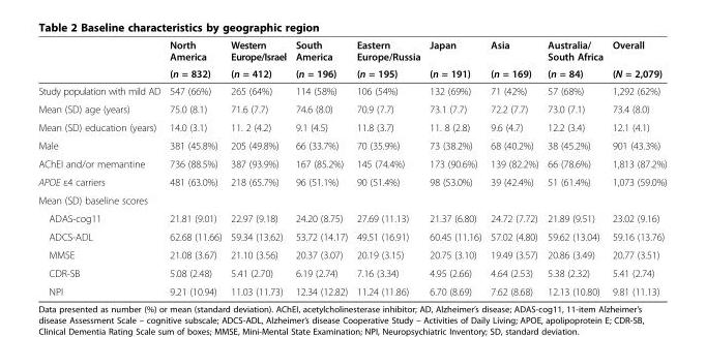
<table><thead><tr><td rowspan="2"></td><td rowspan="2">North America (n = 832)</td><td rowspan="2">Western Europe/Israel (n = 412)</td><td rowspan="2">South America (n = 196)</td><td rowspan="2">Eastern Europe/Russia (n = 195)</td><td rowspan="2">Japan (n = 191)</td><td rowspan="2">Asia (n = 169)</td><td rowspan="2">Australia/ South Africa (n = 84)</td><td rowspan="2">Overall (N = 2,079)</td></tr><tr></tr></thead><tbody><tr><td>Study population with mild AD</td><td>547 (66%)</td><td>265 (64%)</td><td>114 (58%)</td><td>106 (54%)</td><td>132 (69%)</td><td>71 (42%)</td><td>57 (68%)</td><td>1,292 (62%)</td></tr><tr><td>Mean (SD) age (years)</td><td>75.0 (8.1)</td><td>71.6 (7.7)</td><td>74.6 (8.0)</td><td>70.9 (7.7)</td><td>73.1 (7.7)</td><td>72.2 (7.7)</td><td>73.0 (7.1)</td><td>73.4 (8.0)</td></tr><tr><td>Mean (SD) education (years)</td><td>14.0 (3.1)</td><td>11. 2 (4.2)</td><td>9.1 (4.5)</td><td>11.8 (3.7)</td><td>11. 8 (2.8)</td><td>9.6 (4.7)</td><td>12.2 (3.4)</td><td>12.1 (4.1)</td></tr><tr><td>Male</td><td>381 (45.8%)</td><td>205 (49.8%)</td><td>66 (33.7%)</td><td>70 (35.9%)</td><td>73 (38.2%)</td><td>68 (40.2%)</td><td>38 (45.2%)</td><td>901 (43.3%)</td></tr><tr><td>AChEI and/or memantine</td><td>736 (88.5%)</td><td>387 (93.9%)</td><td>167 (85.2%)</td><td>145 (74.4%)</td><td>173 (90.6%)</td><td>139 (82.2%)</td><td>66 (78.6%)</td><td>1,813 (87.2%)</td></tr><tr><td>APOE ε4 carriers</td><td>481 (63.0%)</td><td>218 (65.7%)</td><td>96 (51.1%)</td><td>90 (51.4%)</td><td>98 (53.0%)</td><td>39 (42.4%)</td><td>51 (61.4%)</td><td>1,073 (59.0%)</td></tr><tr><td colspan="9">Mean (SD) baseline scores</td></tr><tr><td>ADAS-cog11</td><td>21.81 (9.01)</td><td>22.97 (9.18)</td><td>24.20 (8.75)</td><td>27.69 (11.13)</td><td>21.37 (6.80)</td><td>24.72 (7.72)</td><td>21.89 (9.51)</td><td>23.02 (9.16)</td></tr><tr><td>ADCS-ADL</td><td>62.68 (11.66)</td><td>59.34 (13.62)</td><td>53.72 (14.17)</td><td>49.51 (16.91)</td><td>60.45 (11.16)</td><td>57.02 (4.80)</td><td>59.62 (13.04)</td><td>59.16 (13.76)</td></tr><tr><td>MMSE</td><td>21.08 (3.67)</td><td>21.10 (3.56)</td><td>20.37 (3.07)</td><td>20.19 (3.15)</td><td>20.75 (3.10)</td><td>19.49 (3.57)</td><td>20.86 (3.49)</td><td>20.77 (3.51)</td></tr><tr><td>CDR-SB</td><td>5.08 (2.48)</td><td>5.41 (2.70)</td><td>6.19 (2.74)</td><td>7.16 (3.34)</td><td>4.95 (2.66)</td><td>4.64 (2.53)</td><td>5.38 (2.32)</td><td>5.41 (2.74)</td></tr><tr><td>NPI</td><td>9.21 (10.94)</td><td>11.03 (11.73)</td><td>12.34 (12.82)</td><td>11.24 (11.86)</td><td>6.70 (8.69)</td><td>7.62 (8.68)</td><td>12.13 (10.80)</td><td>9.81 (11.13)</td></tr></tbody></table>